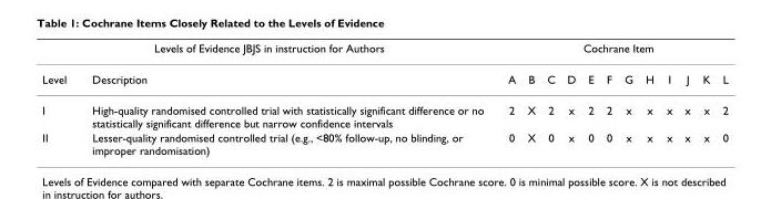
<table><thead><tr><td colspan="2">Levels of Evidence JBJS in instruction for Authors</td><td colspan="12">Cochrane Item</td></tr><tr><td>Level</td><td>Description</td><td>A</td><td>B</td><td>C</td><td>D</td><td>E</td><td>F</td><td>G</td><td>H</td><td>I</td><td>J</td><td>K</td><td>L</td></tr></thead><tbody><tr><td>I</td><td>High-quality randomised controlled trial with statistically significant difference or no statistically significant difference but narrow confidence intervals</td><td>2</td><td>X</td><td>2</td><td>x</td><td>2</td><td>2</td><td>x</td><td>x</td><td>x</td><td>x</td><td>x</td><td>2</td></tr><tr><td>II</td><td>Lesser-quality randomised controlled trial (e.g., &lt;80% follow-up, no blinding, or improper randomisation)</td><td>0</td><td>X</td><td>0</td><td>x</td><td>0</td><td>0</td><td>x</td><td>x</td><td>x</td><td>x</td><td>x</td><td>0</td></tr></tbody></table>